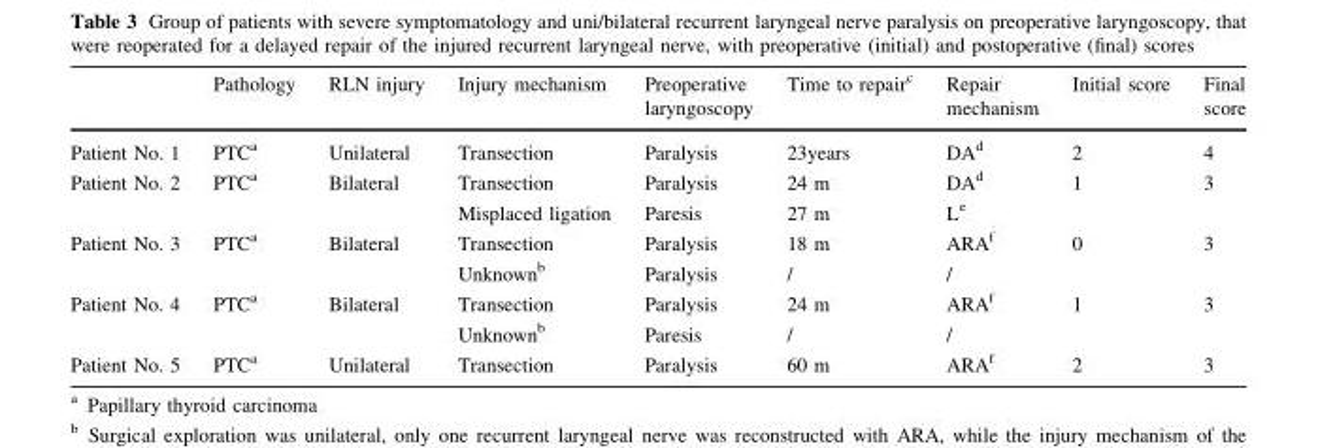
<table><thead><tr><td></td><td>Pathology</td><td>RLN injury</td><td>Injury mechanism</td><td>Preoperative laryngoscopy</td><td>Time to repair<sup>c</sup></td><td>Repair mechanism</td><td>Initial score</td><td>Final score</td></tr></thead><tbody><tr><td>Patient No. 1</td><td>PTC<sup>a</sup></td><td>Unilateral</td><td>Transection</td><td>Paralysis</td><td>23years</td><td>DA<sup>d</sup></td><td>2</td><td>4</td></tr><tr><td rowspan="2">Patient No. 2</td><td rowspan="2">PTC<sup>a</sup></td><td rowspan="2">Bilateral</td><td>Transection</td><td>Paralysis</td><td>24 m</td><td>DA<sup>d</sup></td><td rowspan="2">1</td><td rowspan="2">3</td></tr><tr><td>Misplaced ligation</td><td>Paresis</td><td>27 m</td><td>L<sup>e</sup></td></tr><tr><td rowspan="2">Patient No. 3</td><td rowspan="2">PTC<sup>a</sup></td><td rowspan="2">Bilateral</td><td>Transection</td><td>Paralysis</td><td>18 m</td><td>ARA<sup>f</sup></td><td rowspan="2">0</td><td rowspan="2">3</td></tr><tr><td>Unknown<sup>b</sup></td><td>Paralysis</td><td>/</td><td>/</td></tr><tr><td rowspan="2">Patient No. 4</td><td rowspan="2">PTC<sup>a</sup></td><td rowspan="2">Bilateral</td><td>Transection</td><td>Paralysis</td><td>24 m</td><td>ARA<sup>f</sup></td><td rowspan="2">1</td><td rowspan="2">3</td></tr><tr><td>Unknown<sup>b</sup></td><td>Paresis</td><td>/</td><td>/</td></tr><tr><td>Patient No. 5</td><td>PTC<sup>a</sup></td><td>Unilateral</td><td>Transection</td><td>Paralysis</td><td>60 m</td><td>ARA<sup>f</sup></td><td>2</td><td>3</td></tr></tbody></table>